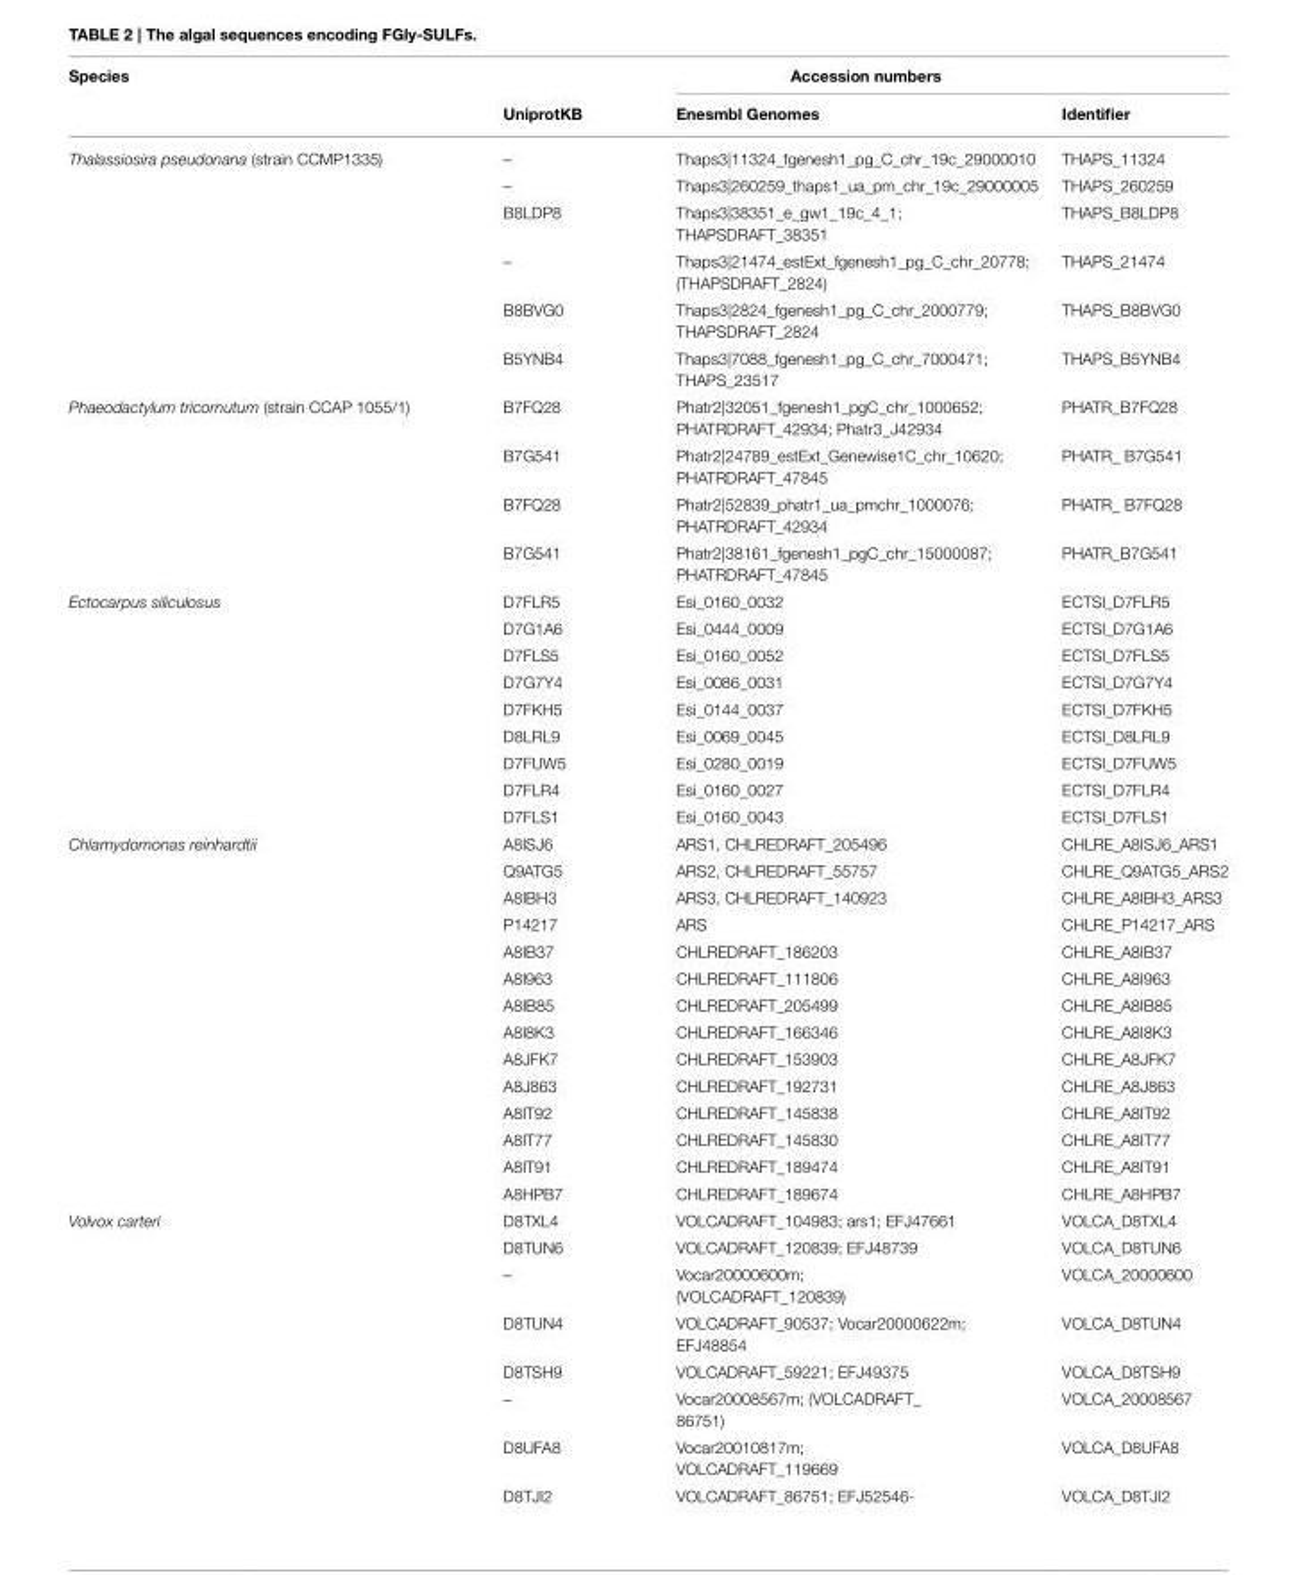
<table><thead><tr><td rowspan="2">Species</td><td colspan="3">Accession numbers</td></tr><tr><td>UniprotKB</td><td>Enesmbl Genomes</td><td>Identifier</td></tr></thead><tbody><tr><td rowspan="6">Thalassiosira pseudonana (strain CCMP1335)</td><td>–</td><td>Thaps3|11324_fgenesh1_pg_C_chr_19c_29000010</td><td>THAPS_11324</td></tr><tr><td>–</td><td>Thaps3|260259_thaps1_ua_pm_chr_19c_29000005</td><td>THAPS_260259</td></tr><tr><td>B8LDP8</td><td>Thaps3|38351_e_gw1_19c_4_1; THAPSDRAFT_38351</td><td>THAPS_B8LDP8</td></tr><tr><td>–</td><td>Thaps3|21474_estExt_fgenesh1_pg_C_chr_20778; (THAPSDRAFT_2824)</td><td>THAPS_21474</td></tr><tr><td>B8BVG0</td><td>Thaps3|2824_fgenesh1_pg_C_chr_2000779; THAPSDRAFT_2824</td><td>THAPS_B8BVG0</td></tr><tr><td>B5YNB4</td><td>Thaps3|7088_fgenesh1_pg_C_chr_7000471; THAPS_23517</td><td>THAPS_B5YNB4</td></tr><tr><td rowspan="4">Phaeodactylum tricornutum (strain CCAP 1055/1)</td><td>B7FQ28</td><td>Phatr2|32051_fgenesh1_pgC_chr_1000652; PHATRDRAFT_42934; Phatr3_J42934</td><td>PHATR_B7FQ28</td></tr><tr><td>B7G541</td><td>Phatr2|24789_estExt_Genewise1C_chr_10620; PHATRDRAFT_47845</td><td>PHATR_ B7G541</td></tr><tr><td>B7FQ28</td><td>Phatr2|52839_phatr1_ua_pmchr_1000076; PHATRDRAFT_42934</td><td>PHATR_ B7FQ28</td></tr><tr><td>B7G541</td><td>Phatr2|38161_fgenesh1_pgC_chr_15000087; PHATRDRAFT_47845</td><td>PHATR_B7G541</td></tr><tr><td rowspan="9">Ectocarpus siliculosus</td><td>D7FLR5</td><td>Esi_0160_0032</td><td>ECTSI_D7FLR5</td></tr><tr><td>D7G1A6</td><td>Esi_0444_0009</td><td>ECTSI_D7G1A6</td></tr><tr><td>D7FLS5</td><td>Esi_0160_0052</td><td>ECTSI_D7FLS5</td></tr><tr><td>D7G7Y4</td><td>Esi_0086_0031</td><td>ECTSI_D7G7Y4</td></tr><tr><td>D7FKH5</td><td>Esi_0144_0037</td><td>ECTSI_D7FKH5</td></tr><tr><td>D8LRL9</td><td>Esi_0069_0045</td><td>ECTSI_D8LRL9</td></tr><tr><td>D7FUW5</td><td>Esi_0280_0019</td><td>ECTSI_D7FUW5</td></tr><tr><td>D7FLR4</td><td>Esi_0160_0027</td><td>ECTSI_D7FLR4</td></tr><tr><td>D7FLS1</td><td>Esi_0160_0043</td><td>ECTSI_D7FLS1</td></tr><tr><td rowspan="14">Chlamydomonas reinhardtii</td><td>A8ISJ6</td><td>ARS1, CHLREDRAFT_205496</td><td>CHLRE_A8ISJ6_ARS1</td></tr><tr><td>Q9ATG5</td><td>ARS2, CHLREDRAFT_55757</td><td>CHLRE_Q9ATG5_ARS2</td></tr><tr><td>A8IBH3</td><td>ARS3, CHLREDRAFT_140923</td><td>CHLRE_A8IBH3_ARS3</td></tr><tr><td>P14217</td><td>ARS</td><td>CHLRE_P14217_ARS</td></tr><tr><td>A8IB37</td><td>CHLREDRAFT_186203</td><td>CHLRE_A8IB37</td></tr><tr><td>A8I963</td><td>CHLREDRAFT_111806</td><td>CHLRE_A8I963</td></tr><tr><td>A8IB85</td><td>CHLREDRAFT_205499</td><td>CHLRE_A8IB85</td></tr><tr><td>A8I8K3</td><td>CHLREDRAFT_166346</td><td>CHLRE_A8I8K3</td></tr><tr><td>A8JFK7</td><td>CHLREDRAFT_153903</td><td>CHLRE_A8JFK7</td></tr><tr><td>A8J863</td><td>CHLREDRAFT_192731</td><td>CHLRE_A8J863</td></tr><tr><td>A8IT92</td><td>CHLREDRAFT_145838</td><td>CHLRE_A8IT92</td></tr><tr><td>A8IT77</td><td>CHLREDRAFT_145830</td><td>CHLRE_A8IT77</td></tr><tr><td>A8IT91</td><td>CHLREDRAFT_189474</td><td>CHLRE_A8IT91</td></tr><tr><td>A8HPB7</td><td>CHLREDRAFT_189674</td><td>CHLRE_A8HPB7</td></tr><tr><td rowspan="8">Volvox carteri</td><td>D8TXL4</td><td>VOLCADRAFT_104983; ars1; EFJ47661</td><td>VOLCA_D8TXL4</td></tr><tr><td>D8TUN6</td><td>VOLCADRAFT_120839; EFJ48739</td><td>VOLCA_D8TUN6</td></tr><tr><td>–</td><td>Vocar20000600m; (VOLCADRAFT_120839)</td><td>VOLCA_20000600</td></tr><tr><td>D8TUN4</td><td>VOLCADRAFT_90537; Vocar20000622m; EFJ48854</td><td>VOLCA_D8TUN4</td></tr><tr><td>D8TSH9</td><td>VOLCADRAFT_59221; EFJ49375</td><td>VOLCA_D8TSH9</td></tr><tr><td>–</td><td>Vocar20008567m; (VOLCADRAFT_ 86751)</td><td>VOLCA_20008567</td></tr><tr><td>D8UFA8</td><td>Vocar20010817m; VOLCADRAFT_119669</td><td>VOLCA_D8UFA8</td></tr><tr><td>D8TJI2</td><td>VOLCADRAFT_86751; EFJ52546-</td><td>VOLCA_D8TJI2</td></tr></tbody></table>